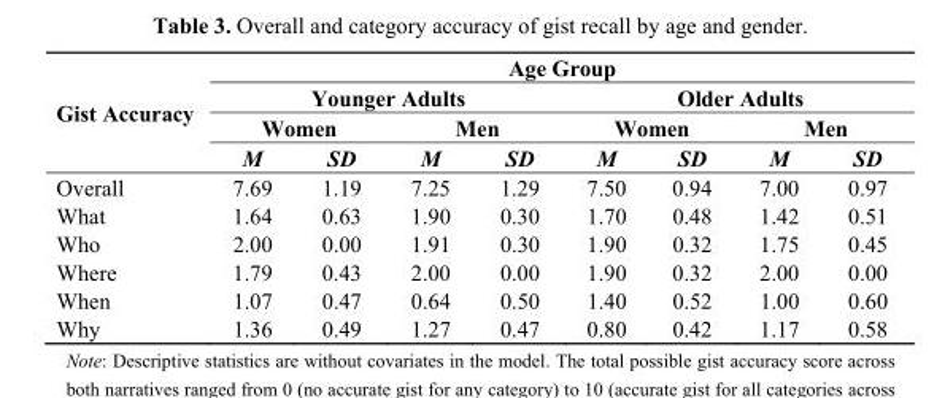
<table><thead><tr><td rowspan="4">Gist Accuracy</td><td colspan="8">Age Group</td></tr><tr><td colspan="4">Younger Adults</td><td colspan="4">Older Adults</td></tr><tr><td colspan="2">Women</td><td colspan="2">Men</td><td colspan="2">Women</td><td colspan="2">Men</td></tr><tr><td>M</td><td>SD</td><td>M</td><td>SD</td><td>M</td><td>SD</td><td>M</td><td>SD</td></tr></thead><tbody><tr><td>Overall</td><td>7.69</td><td>1.19</td><td>7.25</td><td>1.29</td><td>7.50</td><td>0.94</td><td>7.00</td><td>0.97</td></tr><tr><td>What</td><td>1.64</td><td>0.63</td><td>1.90</td><td>0.30</td><td>1.70</td><td>0.48</td><td>1.42</td><td>0.51</td></tr><tr><td>Who</td><td>2.00</td><td>0.00</td><td>1.91</td><td>0.30</td><td>1.90</td><td>0.32</td><td>1.75</td><td>0.45</td></tr><tr><td>Where</td><td>1.79</td><td>0.43</td><td>2.00</td><td>0.00</td><td>1.90</td><td>0.32</td><td>2.00</td><td>0.00</td></tr><tr><td>When</td><td>1.07</td><td>0.47</td><td>0.64</td><td>0.50</td><td>1.40</td><td>0.52</td><td>1.00</td><td>0.60</td></tr><tr><td>Why</td><td>1.36</td><td>0.49</td><td>1.27</td><td>0.47</td><td>0.80</td><td>0.42</td><td>1.17</td><td>0.58</td></tr></tbody></table>